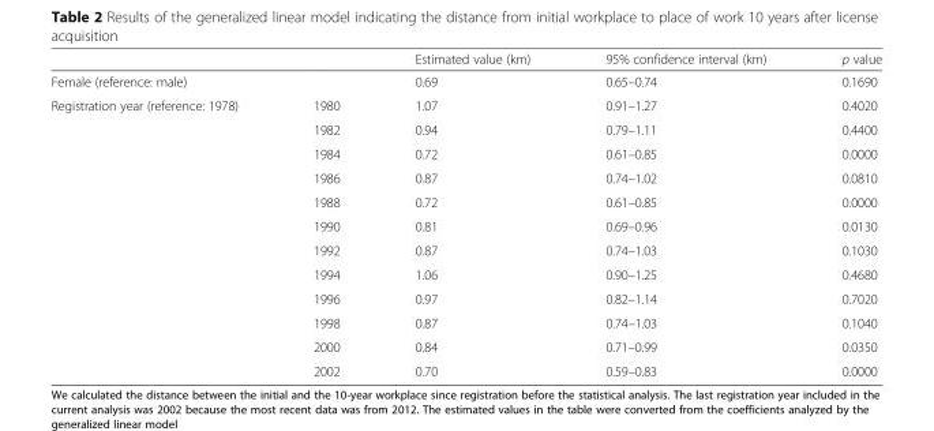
<table><thead><tr><td></td><td></td><td>Estimated value (km)</td><td>95% confidence interval (km)</td><td>p value</td></tr></thead><tbody><tr><td>Female (reference: male)</td><td></td><td>0.69</td><td>0.65–0.74</td><td>0.1690</td></tr><tr><td rowspan="12">Registration year (reference: 1978)</td><td>1980</td><td>1.07</td><td>0.91–1.27</td><td>0.4020</td></tr><tr><td>1982</td><td>0.94</td><td>0.79–1.11</td><td>0.4400</td></tr><tr><td>1984</td><td>0.72</td><td>0.61–0.85</td><td>0.0000</td></tr><tr><td>1986</td><td>0.87</td><td>0.74–1.02</td><td>0.0810</td></tr><tr><td>1988</td><td>0.72</td><td>0.61–0.85</td><td>0.0000</td></tr><tr><td>1990</td><td>0.81</td><td>0.69–0.96</td><td>0.0130</td></tr><tr><td>1992</td><td>0.87</td><td>0.74–1.03</td><td>0.1030</td></tr><tr><td>1994</td><td>1.06</td><td>0.90–1.25</td><td>0.4680</td></tr><tr><td>1996</td><td>0.97</td><td>0.82–1.14</td><td>0.7020</td></tr><tr><td>1998</td><td>0.87</td><td>0.74–1.03</td><td>0.1040</td></tr><tr><td>2000</td><td>0.84</td><td>0.71–0.99</td><td>0.0350</td></tr><tr><td>2002</td><td>0.70</td><td>0.59–0.83</td><td>0.0000</td></tr></tbody></table>